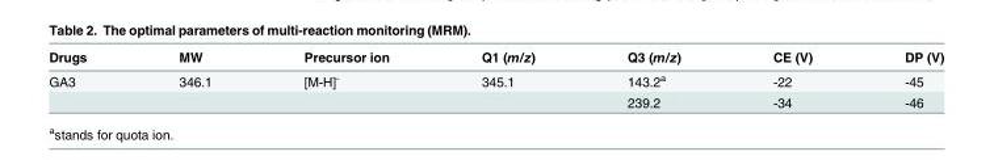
<table><thead><tr><td>Drugs</td><td>MW</td><td>Precursor ion</td><td>Q1 (m/z)</td><td>Q3 (m/z)</td><td>CE (V)</td><td>DP (V)</td></tr></thead><tbody><tr><td rowspan="2">GA3</td><td>346.1</td><td>[M-H]<sup>-</sup></td><td>345.1</td><td>143.2<sup>a</sup></td><td>-22</td><td>-45</td></tr><tr><td></td><td></td><td></td><td>239.2</td><td>-34</td><td>-46</td></tr></tbody></table>